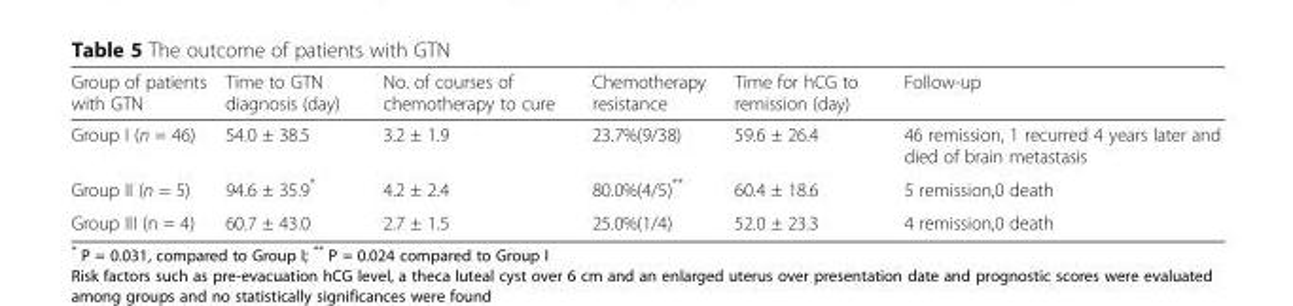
<table><thead><tr><td>Group of patients with GTN</td><td>Time to GTN diagnosis (day)</td><td>No. of courses of chemotherapy to cure</td><td>Chemotherapy resistance</td><td>Time for hCG to remission (day)</td><td>Follow-up</td></tr></thead><tbody><tr><td>Group I (n = 46)</td><td>54.0 ± 38.5</td><td>3.2 ± 1.9</td><td>23.7%(9/38)</td><td>59.6 ± 26.4</td><td>46 remission, 1 recurred 4 years later and died of brain metastasis</td></tr><tr><td>Group II (n = 5)</td><td>94.6 ± 35.9*</td><td>4.2 ± 2.4</td><td>80.0%(4/5)**</td><td>60.4 ± 18.6</td><td>5 remission,0 death</td></tr><tr><td>Group III (n = 4)</td><td>60.7 ± 43.0</td><td>2.7 ± 1.5</td><td>25.0%(1/4)</td><td>52.0 ± 23.3</td><td>4 remission,0 death</td></tr></tbody></table>